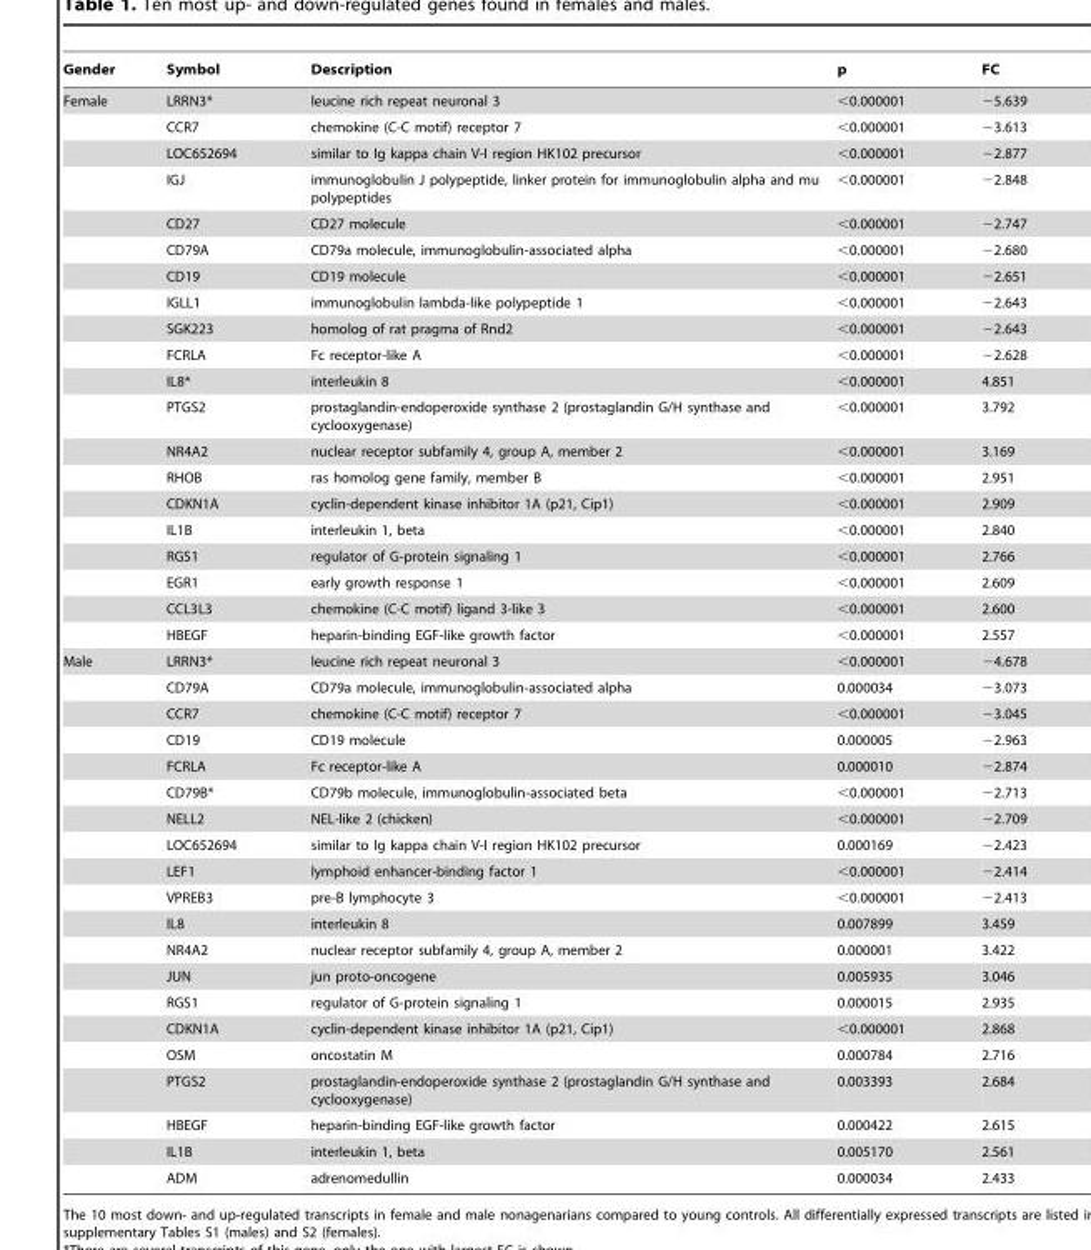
<table><thead><tr><td>Gender</td><td>Symbol</td><td>Description</td><td>p</td><td>FC</td></tr></thead><tbody><tr><td rowspan="20">Female</td><td>LRRN3*</td><td>leucine rich repeat neuronal 3</td><td>&lt;0.000001</td><td>−5.639</td></tr><tr><td>CCR7</td><td>chemokine (C-C motif) receptor 7</td><td>&lt;0.000001</td><td>−3.613</td></tr><tr><td>LOC652694</td><td>similar to Ig kappa chain V-I region HK102 precursor</td><td>&lt;0.000001</td><td>−2.877</td></tr><tr><td>IGJ</td><td>immunoglobulin J polypeptide, linker protein for immunoglobulin alpha and mu polypeptides</td><td>&lt;0.000001</td><td>−2.848</td></tr><tr><td>CD27</td><td>CD27 molecule</td><td>&lt;0.000001</td><td>−2.747</td></tr><tr><td>CD79A</td><td>CD79a molecule, immunoglobulin-associated alpha</td><td>&lt;0.000001</td><td>−2.680</td></tr><tr><td>CD19</td><td>CD19 molecule</td><td>&lt;0.000001</td><td>−2.651</td></tr><tr><td>IGLL1</td><td>immunoglobulin lambda-like polypeptide 1</td><td>&lt;0.000001</td><td>−2.643</td></tr><tr><td>SGK223</td><td>homolog of rat pragma of Rnd2</td><td>&lt;0.000001</td><td>−2.643</td></tr><tr><td>FCRLA</td><td>Fc receptor-like A</td><td>&lt;0.000001</td><td>−2.628</td></tr><tr><td>IL8*</td><td>interleukin 8</td><td>&lt;0.000001</td><td>4.851</td></tr><tr><td>PTGS2</td><td>prostaglandin-endoperoxide synthase 2 (prostaglandin G/H synthase and cyclooxygenase)</td><td>&lt;0.000001</td><td>3.792</td></tr><tr><td>NR4A2</td><td>nuclear receptor subfamily 4, group A, member 2</td><td>&lt;0.000001</td><td>3.169</td></tr><tr><td>RHOB</td><td>ras homolog gene family, member B</td><td>&lt;0.000001</td><td>2.951</td></tr><tr><td>CDKN1A</td><td>cyclin-dependent kinase inhibitor 1A (p21, Cip1)</td><td>&lt;0.000001</td><td>2.909</td></tr><tr><td>IL1B</td><td>interleukin 1, beta</td><td>&lt;0.000001</td><td>2.840</td></tr><tr><td>RGS1</td><td>regulator of G-protein signaling 1</td><td>&lt;0.000001</td><td>2.766</td></tr><tr><td>EGR1</td><td>early growth response 1</td><td>&lt;0.000001</td><td>2.609</td></tr><tr><td>CCL3L3</td><td>chemokine (C-C motif) ligand 3-like 3</td><td>&lt;0.000001</td><td>2.600</td></tr><tr><td>HBEGF</td><td>heparin-binding EGF-like growth factor</td><td>&lt;0.000001</td><td>2.557</td></tr><tr><td rowspan="20">Male</td><td>LRRN3*</td><td>leucine rich repeat neuronal 3</td><td>&lt;0.000001</td><td>−4.678</td></tr><tr><td>CD79A</td><td>CD79a molecule, immunoglobulin-associated alpha</td><td>0.000034</td><td>−3.073</td></tr><tr><td>CCR7</td><td>chemokine (C-C motif) receptor 7</td><td>&lt;0.000001</td><td>−3.045</td></tr><tr><td>CD19</td><td>CD19 molecule</td><td>0.000005</td><td>−2.963</td></tr><tr><td>FCRLA</td><td>Fc receptor-like A</td><td>0.000010</td><td>−2.874</td></tr><tr><td>CD79B*</td><td>CD79b molecule, immunoglobulin-associated beta</td><td>&lt;0.000001</td><td>−2.713</td></tr><tr><td>NELL2</td><td>NEL-like 2 (chicken)</td><td>&lt;0.000001</td><td>−2.709</td></tr><tr><td>LOC652694</td><td>similar to Ig kappa chain V-I region HK102 precursor</td><td>0.000169</td><td>−2.423</td></tr><tr><td>LEF1</td><td>lymphoid enhancer-binding factor 1</td><td>&lt;0.000001</td><td>−2.414</td></tr><tr><td>VPREB3</td><td>pre-B lymphocyte 3</td><td>&lt;0.000001</td><td>−2.413</td></tr><tr><td>IL8</td><td>interleukin 8</td><td>0.007899</td><td>3.459</td></tr><tr><td>NR4A2</td><td>nuclear receptor subfamily 4, group A, member 2</td><td>0.000001</td><td>3.422</td></tr><tr><td>JUN</td><td>jun proto-oncogene</td><td>0.005935</td><td>3.046</td></tr><tr><td>RGS1</td><td>regulator of G-protein signaling 1</td><td>0.000015</td><td>2.935</td></tr><tr><td>CDKN1A</td><td>cyclin-dependent kinase inhibitor 1A (p21, Cip1)</td><td>&lt;0.000001</td><td>2.868</td></tr><tr><td>OSM</td><td>oncostatin M</td><td>0.000784</td><td>2.716</td></tr><tr><td>PTGS2</td><td>prostaglandin-endoperoxide synthase 2 (prostaglandin G/H synthase and cyclooxygenase)</td><td>0.003393</td><td>2.684</td></tr><tr><td>HBEGF</td><td>heparin-binding EGF-like growth factor</td><td>0.000422</td><td>2.615</td></tr><tr><td>IL1B</td><td>interleukin 1, beta</td><td>0.005170</td><td>2.561</td></tr><tr><td>ADM</td><td>adrenomedullin</td><td>0.000034</td><td>2.433</td></tr></tbody></table>